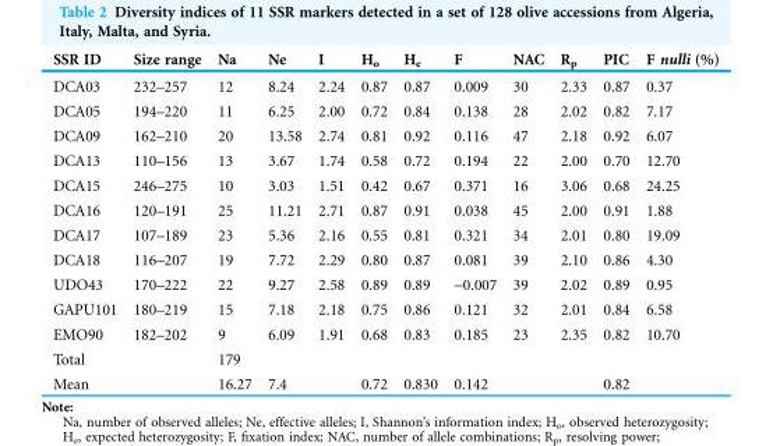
<table><thead><tr><td>SSR ID</td><td>Size range</td><td>Na</td><td>Ne</td><td>I</td><td>H<sub>o</sub></td><td>H<sub>e</sub></td><td>F</td><td>NAC</td><td>R<sub>p</sub></td><td>PIC</td><td>F nulli (%)</td></tr></thead><tbody><tr><td>DCA03</td><td>232–257</td><td>12</td><td>8.24</td><td>2.24</td><td>0.87</td><td>0.87</td><td>0.009</td><td>30</td><td>2.33</td><td>0.87</td><td>0.37</td></tr><tr><td>DCA05</td><td>194–220</td><td>11</td><td>6.25</td><td>2.00</td><td>0.72</td><td>0.84</td><td>0.138</td><td>28</td><td>2.02</td><td>0.82</td><td>7.17</td></tr><tr><td>DCA09</td><td>162–210</td><td>20</td><td>13.58</td><td>2.74</td><td>0.81</td><td>0.92</td><td>0.116</td><td>47</td><td>2.18</td><td>0.92</td><td>6.07</td></tr><tr><td>DCA13</td><td>110–156</td><td>13</td><td>3.67</td><td>1.74</td><td>0.58</td><td>0.72</td><td>0.194</td><td>22</td><td>2.00</td><td>0.70</td><td>12.70</td></tr><tr><td>DCA15</td><td>246–275</td><td>10</td><td>3.03</td><td>1.51</td><td>0.42</td><td>0.67</td><td>0.371</td><td>16</td><td>3.06</td><td>0.68</td><td>24.25</td></tr><tr><td>DCA16</td><td>120–191</td><td>25</td><td>11.21</td><td>2.71</td><td>0.87</td><td>0.91</td><td>0.038</td><td>45</td><td>2.00</td><td>0.91</td><td>1.88</td></tr><tr><td>DCA17</td><td>107–189</td><td>23</td><td>5.36</td><td>2.16</td><td>0.55</td><td>0.81</td><td>0.321</td><td>34</td><td>2.01</td><td>0.80</td><td>19.09</td></tr><tr><td>DCA18</td><td>116–207</td><td>19</td><td>7.72</td><td>2.29</td><td>0.80</td><td>0.87</td><td>0.081</td><td>39</td><td>2.10</td><td>0.86</td><td>4.30</td></tr><tr><td>UDO43</td><td>170–222</td><td>22</td><td>9.27</td><td>2.58</td><td>0.89</td><td>0.89</td><td>-0.007</td><td>39</td><td>2.02</td><td>0.89</td><td>0.95</td></tr><tr><td>GAPU101</td><td>180–219</td><td>15</td><td>7.18</td><td>2.18</td><td>0.75</td><td>0.86</td><td>0.121</td><td>32</td><td>2.01</td><td>0.84</td><td>6.58</td></tr><tr><td>EMO90</td><td>182–202</td><td>9</td><td>6.09</td><td>1.91</td><td>0.68</td><td>0.83</td><td>0.185</td><td>23</td><td>2.35</td><td>0.82</td><td>10.70</td></tr><tr><td>Total</td><td></td><td>179</td><td></td><td></td><td></td><td></td><td></td><td></td><td></td><td></td><td></td></tr><tr><td>Mean</td><td></td><td>16.27</td><td>7.4</td><td></td><td>0.72</td><td>0.830</td><td>0.142</td><td></td><td></td><td>0.82</td><td></td></tr></tbody></table>